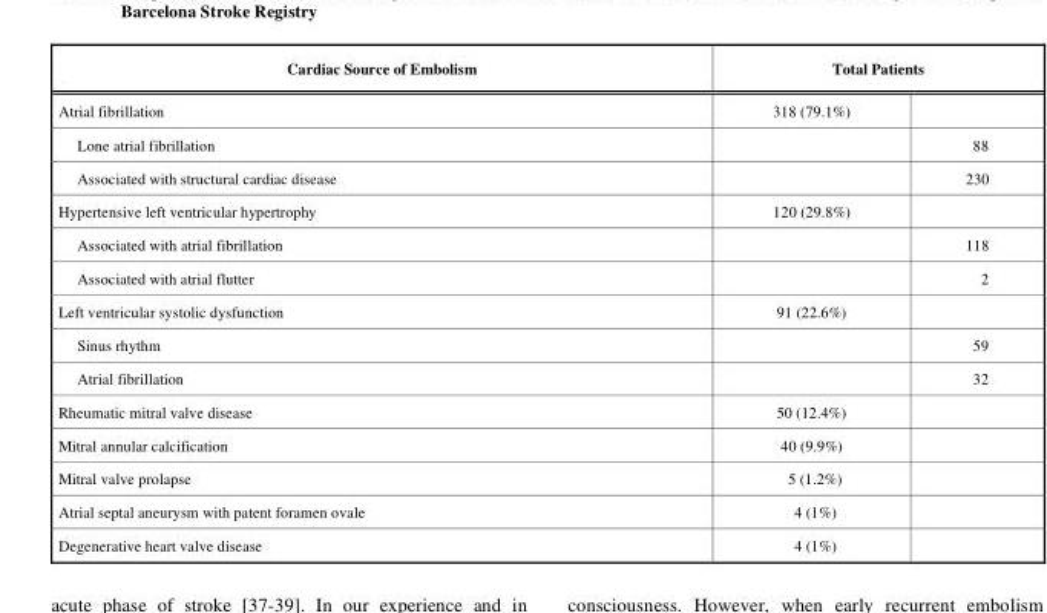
<table><thead><tr><td rowspan="2">Cardiac Source of Embolism Atrial fibrillation</td><td colspan="2">Total Patients</td></tr><tr><td>318 (79.1%)</td><td></td></tr></thead><tbody><tr><td>Lone atrial fibrillation</td><td></td><td>88</td></tr><tr><td>Associated with structural cardiac disease</td><td></td><td>230</td></tr><tr><td>Hypertensive left ventricular hypertrophy</td><td>120 (29.8%)</td><td></td></tr><tr><td>Associated with atrial fibrillation</td><td></td><td>118</td></tr><tr><td>Associated with atrial flutter</td><td></td><td>2</td></tr><tr><td>Left ventricular systolic dysfunction</td><td>91 (22.6%)</td><td></td></tr><tr><td>Sinus rhythm</td><td></td><td>59</td></tr><tr><td>Atrial fibrillation</td><td></td><td>32</td></tr><tr><td>Rheumatic mitral valve disease</td><td>50 (12.4%)</td><td></td></tr><tr><td>Mitral annular calcification</td><td>40 (9.9%)</td><td></td></tr><tr><td>Mitral valve prolapse</td><td>5 (1.2%)</td><td></td></tr><tr><td>Atrial septal aneurysm with patent foramen ovale</td><td>4 (1%)</td><td></td></tr><tr><td>Degenerative heart valve disease</td><td>4 (1%)</td><td></td></tr></tbody></table>